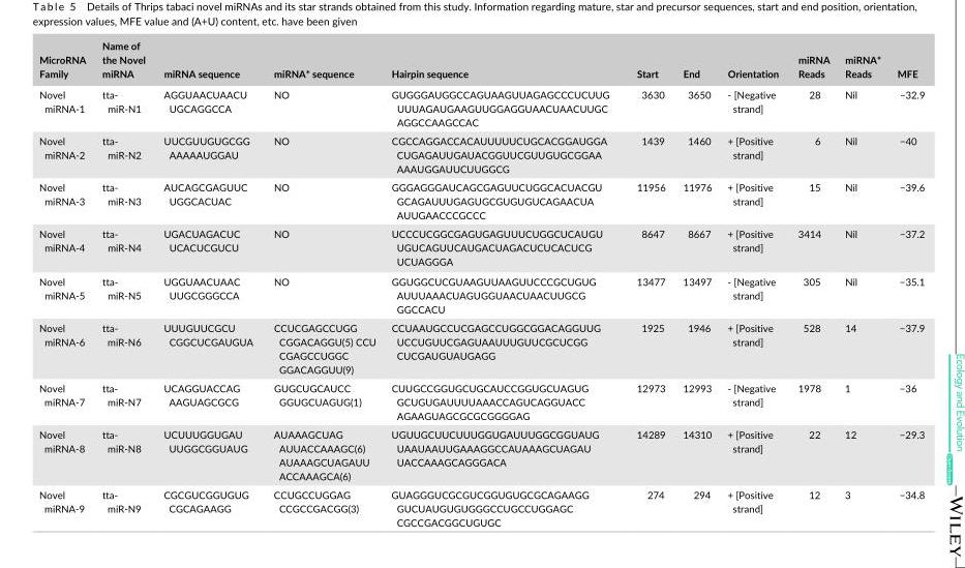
<table><thead><tr><td>MicroRNA Family</td><td>Name of the Novel miRNA</td><td>miRNA sequence</td><td>miRNA* sequence</td><td>Hairpin sequence</td><td>Start</td><td>End</td><td>Orientation</td><td>miRNA Reads</td><td>miRNA* Reads</td><td>MFE</td></tr></thead><tbody><tr><td>Novel miRNA- 1</td><td>tta- miR- N1</td><td>AGGUAACUAACU UGCAGGCCA</td><td>NO</td><td>GUGGGAUGGCCAGUAAGUUAGAGCCCUCUUG UUUAGAUGAAGUUGGAGGUAACUAACUUGC AGGCCAAGCCAC</td><td>3630</td><td>3650</td><td>- [Negative strand]</td><td>28</td><td>Nil</td><td>−32.9</td></tr><tr><td>Novel miRNA- 2</td><td>tta- miR- N2</td><td>UUCGUUGUGCGG AAAAAUGGAU</td><td>NO</td><td>CGCCAGGACCACAUUUUUCUGCACGGAUGGA CUGAGAUUGAUACGGUUCGUUGUGCGGAA AAAUGGAUUCUUGGCG</td><td>1439</td><td>1460</td><td>+ [Positive strand]</td><td>6</td><td>Nil</td><td>−40</td></tr><tr><td>Novel miRNA- 3</td><td>tta- miR- N3</td><td>AUCAGCGAGUUC UGGCACUAC</td><td>NO</td><td>GGGAGGGAUCAGCGAGUUCUGGCACUACGU GCAGAUUUGAGUGCGUGUGUCAGAACUA AUUGAACCCGCCC</td><td>11956</td><td>11976</td><td>+ [Positive strand]</td><td>15</td><td>Nil</td><td>−39.6</td></tr><tr><td>Novel miRNA- 4</td><td>tta- miR- N4</td><td>UGACUAGACUC UCACUCGUCU</td><td>NO</td><td>UCCCUCGGCGAGUGAGUUUCUGGCUCAUGU UGUCAGUUCAUGACUAGACUCUCACUCG UCUAGGGA</td><td>8647</td><td>8667</td><td>+ [Positive strand]</td><td>3414</td><td>Nil</td><td>−37.2</td></tr><tr><td>Novel miRNA- 5</td><td>tta- miR- N5</td><td>UGGUAACUAAC UUGCGGGCCA</td><td>NO</td><td>GGUGGCUCGUAAGUUAAGUUCCCGCUGUG AUUUAAACUAGUGGUAACUAACUUGCG GGCCACU</td><td>13477</td><td>13497</td><td>- [Negative strand]</td><td>305</td><td>Nil</td><td>−35.1</td></tr><tr><td>Novel miRNA- 6</td><td>tta- miR- N6</td><td>UUUGUUCGCU CGGCUCGAUGUA</td><td>CCUCGAGCCUGG CGGACAGGU(5) CCU CGAGCCUGGC GGACAGGUU(9)</td><td>CCUAAUGCCUCGAGCCUGGCGGACAGGUUG UCCUGUUCGAGUAAUUUGUUCGCUCGG CUCGAUGUAUGAGG</td><td>1925</td><td>1946</td><td>+ [Positive strand]</td><td>528</td><td>14</td><td>−37.9</td></tr><tr><td>Novel miRNA- 7</td><td>tta- miR- N7</td><td>UCAGGUACCAG AAGUAGCGCG</td><td>GUGCUGCAUCC GGUGCUAGUG(1)</td><td>CUUGCCGGUGCUGCAUCCGGUGCUAGUG GCUGUGAUUUUAAACCAGUCAGGUACC AGAAGUAGCGCGCGGGGAG</td><td>12973</td><td>12993</td><td>- [Negative strand]</td><td>1978</td><td>1</td><td>−36</td></tr><tr><td>Novel miRNA- 8</td><td>tta- miR- N8</td><td>UCUUUGGUGAU UUGGCGGUAUG</td><td>AUAAAGCUAG AUUACCAAAGC(6) AUAAAGCUAGAUU ACCAAAGCA(6)</td><td>UGUUGCUUCUUUGGUGAUUUGGCGGUAUG UAAUAAUUGAAAGGCCAUAAAGCUAGAU UACCAAAGCAGGGACA</td><td>14289</td><td>14310</td><td>+ [Positive strand]</td><td>22</td><td>12</td><td>−29.3</td></tr><tr><td>Novel miRNA- 9</td><td>tta- miR- N9</td><td>CGCGUCGGUGUG CGCAGAAGG</td><td>CCUGCCUGGAG CCGCCGACGG(3)</td><td>GUAGGGUCGCGUCGGUGUGCGCAGAAGG GUCUAUGUGUGGGCCUGCCUGGAGC CGCCGACGGCUGUGC</td><td>274</td><td>294</td><td>+ [Positive strand]</td><td>12</td><td>3</td><td>−34.8</td></tr></tbody></table>